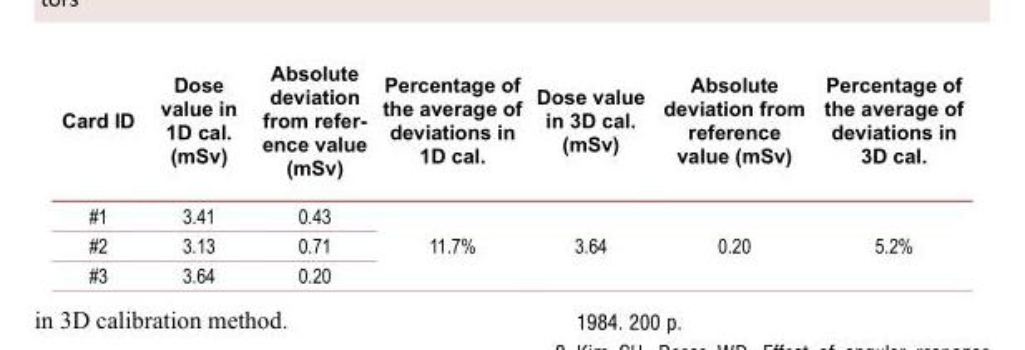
<table><thead><tr><td>Card ID</td><td>Dose value in 1D cal. (mSv)</td><td>Absolute deviation from refer- ence value (mSv)</td><td>Percentage of the average of deviations in 1D cal.</td><td>Dose value in 3D cal. (mSv)</td><td>Absolute deviation from reference value (mSv)</td><td>Percentage of the average of deviations in 3D cal.</td></tr></thead><tbody><tr><td>#1</td><td>3.41</td><td>0.43</td><td rowspan="3">11.7%</td><td rowspan="3">3.64</td><td rowspan="3">0.20</td><td rowspan="3">5.2%</td></tr><tr><td>#2</td><td>3.13</td><td>0.71</td></tr><tr><td>#3</td><td>3.64</td><td>0.20</td></tr></tbody></table>